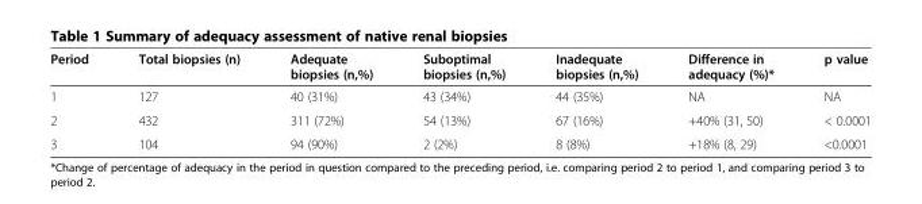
<table><thead><tr><td>Period</td><td>Total biopsies (n)</td><td>Adequate biopsies (n,%)</td><td>Suboptimal biopsies (n,%)</td><td>Inadequate biopsies (n,%)</td><td>Difference in adequacy (%)*</td><td>p value</td></tr></thead><tbody><tr><td>1</td><td>127</td><td>40 (31%)</td><td>43 (34%)</td><td>44 (35%)</td><td>NA</td><td>NA</td></tr><tr><td>2</td><td>432</td><td>311 (72%)</td><td>54 (13%)</td><td>67 (16%)</td><td>+40% (31, 50)</td><td>&lt; 0.0001</td></tr><tr><td>3</td><td>104</td><td>94 (90%)</td><td>2 (2%)</td><td>8 (8%)</td><td>+18% (8, 29)</td><td>&lt;0.0001</td></tr></tbody></table>